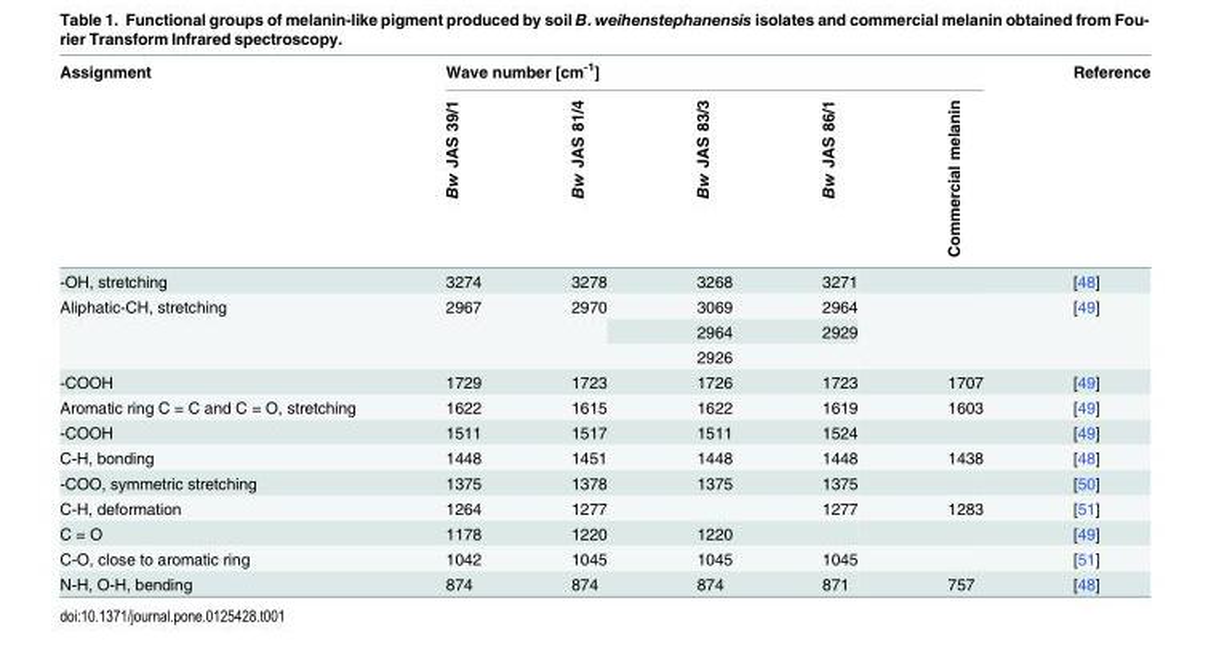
<table><thead><tr><td rowspan="2">Assignment</td><td colspan="5">Wave number [cm<sup>-1</sup>]</td><td rowspan="2">Reference</td></tr><tr><td>Bw JAS 39/1</td><td>Bw JAS 81/4</td><td>Bw JAS 83/3</td><td>Bw JAS 86/1</td><td>Commercial melanin</td></tr></thead><tbody><tr><td>-OH, stretching</td><td>3274</td><td>3278</td><td>3268</td><td>3271</td><td></td><td>[48]</td></tr><tr><td rowspan="3">Aliphatic-CH, stretching</td><td rowspan="3">2967</td><td rowspan="3">2970</td><td>3069</td><td>2964</td><td rowspan="3"></td><td rowspan="3">[49]</td></tr><tr><td>2964</td><td>2929</td></tr><tr><td>2926</td><td></td></tr><tr><td>-COOH</td><td>1729</td><td>1723</td><td>1726</td><td>1723</td><td>1707</td><td>[49]</td></tr><tr><td>Aromatic ring C = C and C = O, stretching</td><td>1622</td><td>1615</td><td>1622</td><td>1619</td><td>1603</td><td>[49]</td></tr><tr><td>-COOH</td><td>1511</td><td>1517</td><td>1511</td><td>1524</td><td></td><td>[49]</td></tr><tr><td>C-H, bonding</td><td>1448</td><td>1451</td><td>1448</td><td>1448</td><td>1438</td><td>[48]</td></tr><tr><td>-COO, symmetric stretching</td><td>1375</td><td>1378</td><td>1375</td><td>1375</td><td></td><td>[50]</td></tr><tr><td>C-H, deformation</td><td>1264</td><td>1277</td><td></td><td>1277</td><td>1283</td><td>[51]</td></tr><tr><td>C = O</td><td>1178</td><td>1220</td><td>1220</td><td></td><td></td><td>[49]</td></tr><tr><td>C-O, close to aromatic ring</td><td>1042</td><td>1045</td><td>1045</td><td>1045</td><td></td><td>[51]</td></tr><tr><td>N-H, O-H, bending</td><td>874</td><td>874</td><td>874</td><td>871</td><td>757</td><td>[48]</td></tr></tbody></table>